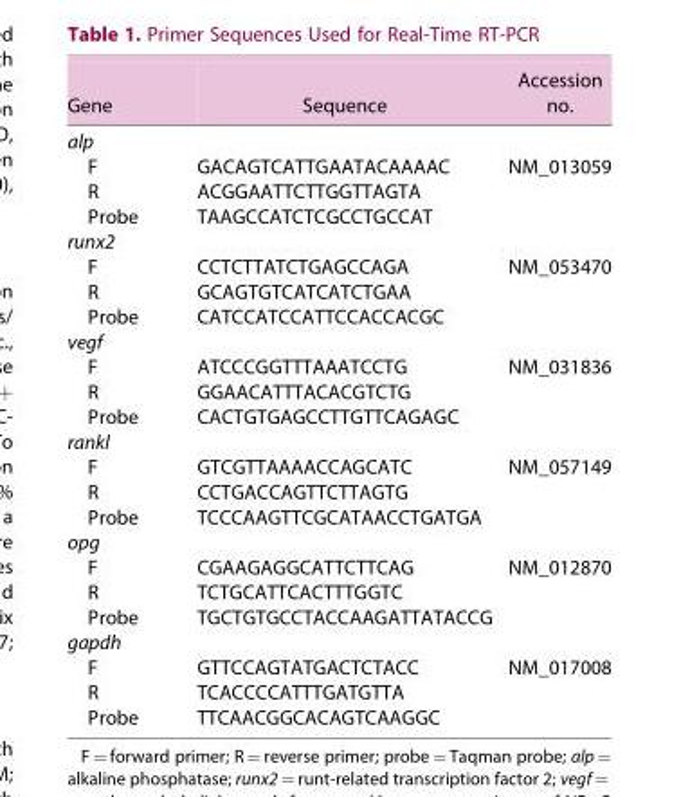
<table><thead><tr><td>Gene</td><td>Sequence</td><td>Accession no.</td></tr></thead><tbody><tr><td colspan="3">alp</td></tr><tr><td>F</td><td>GACAGTCATTGAATACAAAAC</td><td>NM_013059</td></tr><tr><td>R</td><td>ACGGAATTCTTGGTTAGTA</td><td></td></tr><tr><td>Probe</td><td>TAAGCCATCTCGCCTGCCAT</td><td></td></tr><tr><td colspan="3">runx2</td></tr><tr><td>F</td><td>CCTCTTATCTGAGCCAGA</td><td>NM_053470</td></tr><tr><td>R</td><td>GCAGTGTCATCATCTGAA</td><td></td></tr><tr><td>Probe</td><td>CATCCATCCATTCCACCACGC</td><td></td></tr><tr><td colspan="3">vegf</td></tr><tr><td>F</td><td>ATCCCGGTTTAAATCCTG</td><td>NM_031836</td></tr><tr><td>R</td><td>GGAACATTTACACGTCTG</td><td></td></tr><tr><td>Probe</td><td>CACTGTGAGCCTTGTTCAGAGC</td><td></td></tr><tr><td colspan="3">rankl</td></tr><tr><td>F</td><td>GTCGTTAAAACCAGCATC</td><td>NM_057149</td></tr><tr><td>R</td><td>CCTGACCAGTTCTTAGTG</td><td></td></tr><tr><td>Probe</td><td>TCCCAAGTTCGCATAACCTGATGA</td><td></td></tr><tr><td colspan="3">opg</td></tr><tr><td>F</td><td>CGAAGAGGCATTCTTCAG</td><td>NM_012870</td></tr><tr><td>R</td><td>TCTGCATTCACTTTGGTC</td><td></td></tr><tr><td>Probe</td><td>TGCTGTGCCTACCAAGATTATACCG</td><td></td></tr><tr><td colspan="3">gapdh</td></tr><tr><td>F</td><td>GTTCCAGTATGACTCTACC</td><td>NM_017008</td></tr><tr><td>R</td><td>TCACCCCATTTGATGTTA</td><td></td></tr><tr><td>Probe</td><td>TTCAACGGCACAGTCAAGGC</td><td></td></tr></tbody></table>